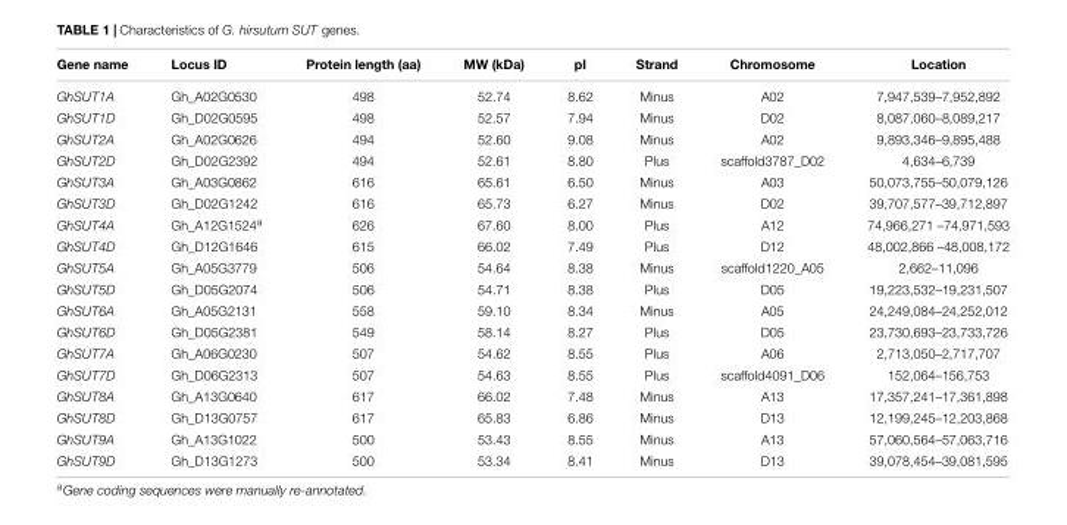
<table><thead><tr><td>Gene name</td><td>Locus ID</td><td>Protein length (aa)</td><td>MW (kDa)</td><td>pI</td><td>Strand</td><td>Chromosome</td><td>Location</td></tr></thead><tbody><tr><td>GhSUT1A</td><td>Gh_A02G0530</td><td>498</td><td>52.74</td><td>8.62</td><td>Minus</td><td>A02</td><td>7,947,539–7,952,892</td></tr><tr><td>GhSUT1D</td><td>Gh_D02G0595</td><td>498</td><td>52.57</td><td>7.94</td><td>Minus</td><td>D02</td><td>8,087,060–8,089,217</td></tr><tr><td>GhSUT2A</td><td>Gh_A02G0626</td><td>494</td><td>52.60</td><td>9.08</td><td>Minus</td><td>A02</td><td>9,893,346–9,895,488</td></tr><tr><td>GhSUT2D</td><td>Gh_D02G2392</td><td>494</td><td>52.61</td><td>8.80</td><td>Plus</td><td>scaffold3787_D02</td><td>4,634–6,739</td></tr><tr><td>GhSUT3A</td><td>Gh_A03G0862</td><td>616</td><td>65.61</td><td>6.50</td><td>Minus</td><td>A03</td><td>50,073,755–50,079,126</td></tr><tr><td>GhSUT3D</td><td>Gh_D02G1242</td><td>616</td><td>65.73</td><td>6.27</td><td>Minus</td><td>D02</td><td>39,707,577–39,712,897</td></tr><tr><td>GhSUT4A</td><td>Gh_A12G1524<sup>a</sup></td><td>626</td><td>67.60</td><td>8.00</td><td>Plus</td><td>A12</td><td>74,966,271 –74,971,593</td></tr><tr><td>GhSUT4D</td><td>Gh_D12G1646</td><td>615</td><td>66.02</td><td>7.49</td><td>Plus</td><td>D12</td><td>48,002,866 –48,008,172</td></tr><tr><td>GhSUT5A</td><td>Gh_A05G3779</td><td>506</td><td>54.64</td><td>8.38</td><td>Minus</td><td>scaffold1220_A05</td><td>2,662–11,096</td></tr><tr><td>GhSUT5D</td><td>Gh_D05G2074</td><td>506</td><td>54.71</td><td>8.38</td><td>Plus</td><td>D05</td><td>19,223,532–19,231,507</td></tr><tr><td>GhSUT6A</td><td>Gh_A05G2131</td><td>558</td><td>59.10</td><td>8.34</td><td>Minus</td><td>A05</td><td>24,249,084–24,252,012</td></tr><tr><td>GhSUT6D</td><td>Gh_D05G2381</td><td>549</td><td>58.14</td><td>8.27</td><td>Plus</td><td>D05</td><td>23,730,693–23,733,726</td></tr><tr><td>GhSUT7A</td><td>Gh_A06G0230</td><td>507</td><td>54.62</td><td>8.55</td><td>Plus</td><td>A06</td><td>2,713,050–2,717,707</td></tr><tr><td>GhSUT7D</td><td>Gh_D06G2313</td><td>507</td><td>54.63</td><td>8.55</td><td>Plus</td><td>scaffold4091_D06</td><td>152,064–156,753</td></tr><tr><td>GhSUT8A</td><td>Gh_A13G0640</td><td>617</td><td>66.02</td><td>7.48</td><td>Minus</td><td>A13</td><td>17,357,241–17,361,898</td></tr><tr><td>GhSUT8D</td><td>Gh_D13G0757</td><td>617</td><td>65.83</td><td>6.86</td><td>Minus</td><td>D13</td><td>12,199,245–12,203,868</td></tr><tr><td>GhSUT9A</td><td>Gh_A13G1022</td><td>500</td><td>53.43</td><td>8.55</td><td>Minus</td><td>A13</td><td>57,060,564–57,063,716</td></tr><tr><td>GhSUT9D</td><td>Gh_D13G1273</td><td>500</td><td>53.34</td><td>8.41</td><td>Minus</td><td>D13</td><td>39,078,454–39,081,595</td></tr></tbody></table>